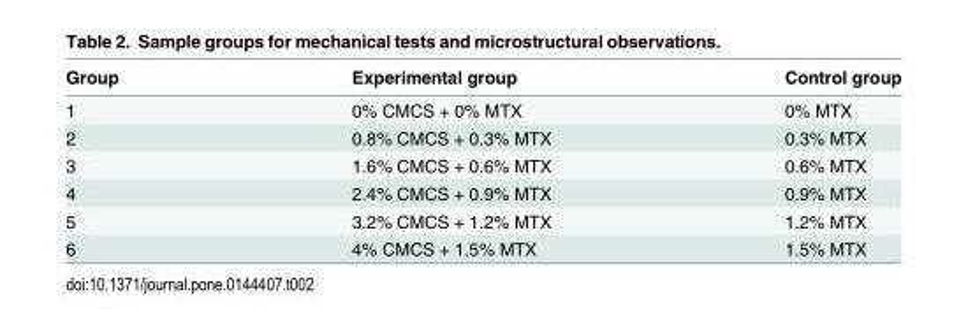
<table><thead><tr><td>Group</td><td>Experimental group</td><td>Control group</td></tr></thead><tbody><tr><td>1</td><td>0% CMCS + 0% MTX</td><td>0% MTX</td></tr><tr><td>2</td><td>0.8% CMCS + 0.3% MTX</td><td>0.3% MTX</td></tr><tr><td>3</td><td>1.6% CMCS + 0.6% MTX</td><td>0.6% MTX</td></tr><tr><td>4</td><td>2.4% CMCS + 0.9% MTX</td><td>0.9% MTX</td></tr><tr><td>5</td><td>3.2% CMCS + 1.2% MTX</td><td>1.2% MTX</td></tr><tr><td>6</td><td>4% CMCS + 1.5% MTX</td><td>1.5% MTX</td></tr></tbody></table>